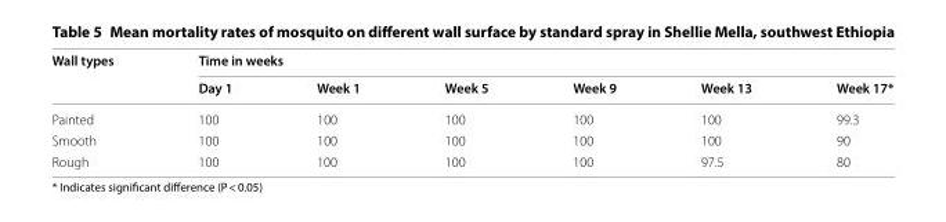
<table><thead><tr><td rowspan="2">Wall types</td><td colspan="6">Time in weeks</td></tr><tr><td>Day 1</td><td>Week 1</td><td>Week 5</td><td>Week 9</td><td>Week 13</td><td>Week 17*</td></tr></thead><tbody><tr><td>Painted</td><td>100</td><td>100</td><td>100</td><td>100</td><td>100</td><td>99.3</td></tr><tr><td>Smooth</td><td>100</td><td>100</td><td>100</td><td>100</td><td>100</td><td>90</td></tr><tr><td>Rough</td><td>100</td><td>100</td><td>100</td><td>100</td><td>97.5</td><td>80</td></tr></tbody></table>